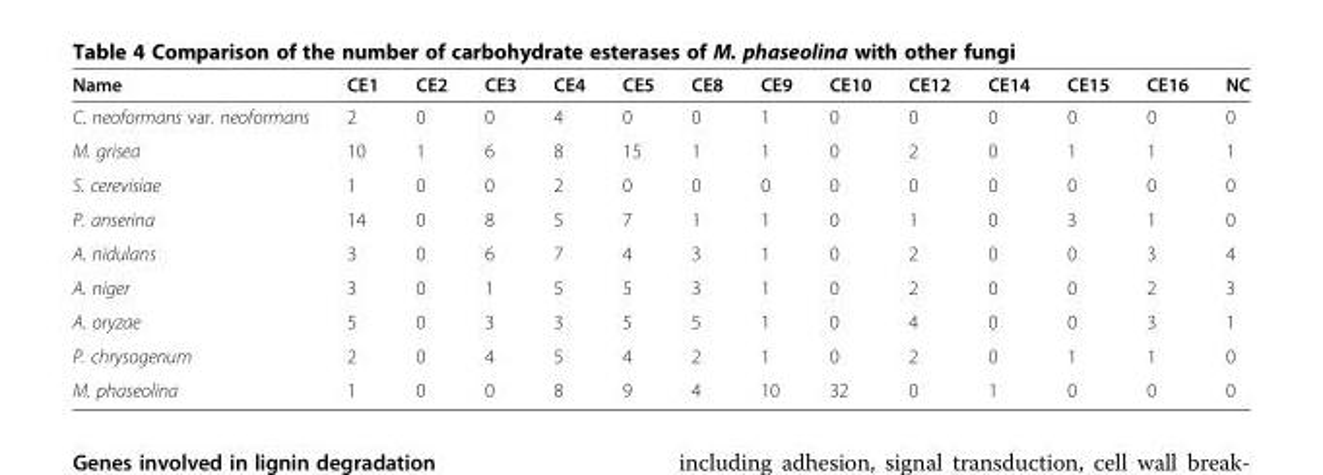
<table><thead><tr><td>Name</td><td>CE1</td><td>CE2</td><td>CE3</td><td>CE4</td><td>CE5</td><td>CE8</td><td>CE9</td><td>CE10</td><td>CE12</td><td>CE14</td><td>CE15</td><td>CE16</td><td>NC</td></tr></thead><tbody><tr><td>C. neoformans var. neoformans</td><td>2</td><td>0</td><td>0</td><td>4</td><td>0</td><td>0</td><td>1</td><td>0</td><td>0</td><td>0</td><td>0</td><td>0</td><td>0</td></tr><tr><td>M. grisea</td><td>10</td><td>1</td><td>6</td><td>8</td><td>15</td><td>1</td><td>1</td><td>0</td><td>2</td><td>0</td><td>1</td><td>1</td><td>1</td></tr><tr><td>S. cerevisiae</td><td>1</td><td>0</td><td>0</td><td>2</td><td>0</td><td>0</td><td>0</td><td>0</td><td>0</td><td>0</td><td>0</td><td>0</td><td>0</td></tr><tr><td>P. anserina</td><td>14</td><td>0</td><td>8</td><td>5</td><td>7</td><td>1</td><td>1</td><td>0</td><td>1</td><td>0</td><td>3</td><td>1</td><td>0</td></tr><tr><td>A. nidulans</td><td>3</td><td>0</td><td>6</td><td>7</td><td>4</td><td>3</td><td>1</td><td>0</td><td>2</td><td>0</td><td>0</td><td>3</td><td>4</td></tr><tr><td>A. niger</td><td>3</td><td>0</td><td>1</td><td>5</td><td>5</td><td>3</td><td>1</td><td>0</td><td>2</td><td>0</td><td>0</td><td>2</td><td>3</td></tr><tr><td>A. oryzae</td><td>5</td><td>0</td><td>3</td><td>3</td><td>5</td><td>5</td><td>1</td><td>0</td><td>4</td><td>0</td><td>0</td><td>3</td><td>1</td></tr><tr><td>P. chrysogenum</td><td>2</td><td>0</td><td>4</td><td>5</td><td>4</td><td>2</td><td>1</td><td>0</td><td>2</td><td>0</td><td>1</td><td>1</td><td>0</td></tr><tr><td>M. phaseolina</td><td>1</td><td>0</td><td>0</td><td>8</td><td>9</td><td>4</td><td>10</td><td>32</td><td>0</td><td>1</td><td>0</td><td>0</td><td>0</td></tr></tbody></table>